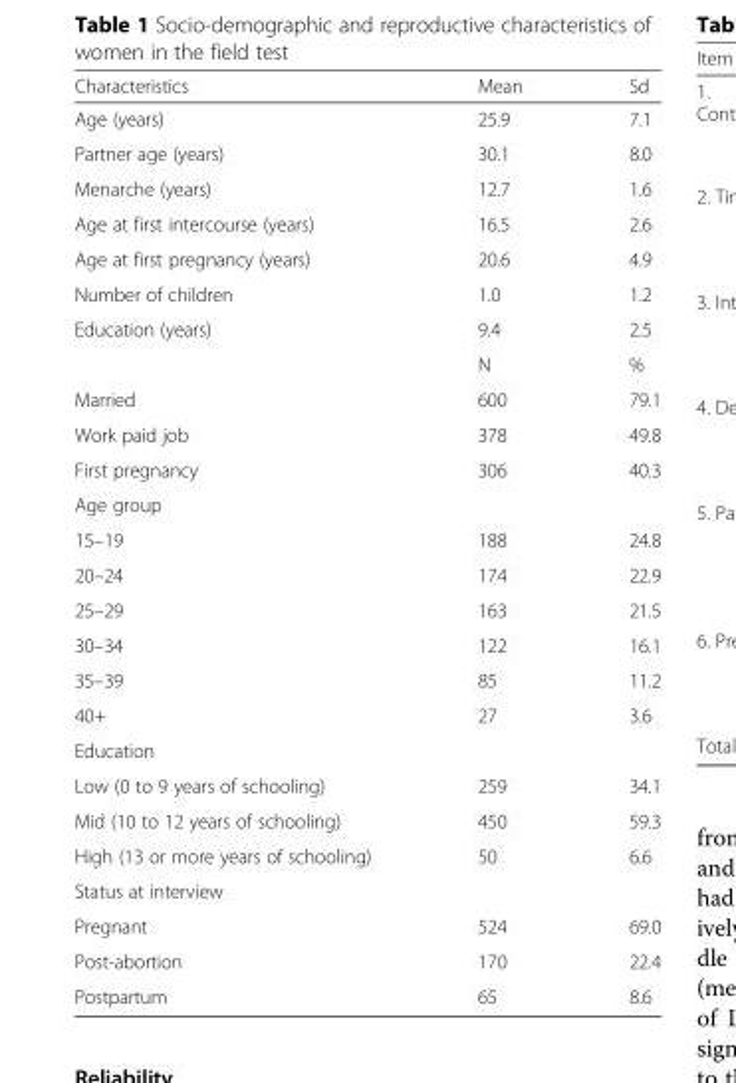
<table><thead><tr><td>Characteristics</td><td>Mean</td><td>Sd</td></tr></thead><tbody><tr><td>Age (years)</td><td>25.9</td><td>7.1</td></tr><tr><td>Partner age (years)</td><td>30.1</td><td>8.0</td></tr><tr><td>Menarche (years)</td><td>12.7</td><td>1.6</td></tr><tr><td>Age at first intercourse (years)</td><td>16.5</td><td>2.6</td></tr><tr><td>Age at first pregnancy (years)</td><td>20.6</td><td>4.9</td></tr><tr><td>Number of children</td><td>1.0</td><td>1.2</td></tr><tr><td rowspan="2">Education (years)</td><td>9.4</td><td>2.5</td></tr><tr><td>N</td><td>%</td></tr><tr><td>Married</td><td>600</td><td>79.1</td></tr><tr><td>Work paid job</td><td>378</td><td>49.8</td></tr><tr><td>First pregnancy</td><td>306</td><td>40.3</td></tr><tr><td colspan="3">Age group</td></tr><tr><td>15–19</td><td>188</td><td>24.8</td></tr><tr><td>20–24</td><td>174</td><td>22.9</td></tr><tr><td>25–29</td><td>163</td><td>21.5</td></tr><tr><td>30–34</td><td>122</td><td>16.1</td></tr><tr><td>35–39</td><td>85</td><td>11.2</td></tr><tr><td>40+</td><td>27</td><td>3.6</td></tr><tr><td colspan="3">Education</td></tr><tr><td>Low (0 to 9 years of schooling)</td><td>259</td><td>34.1</td></tr><tr><td>Mid (10 to 12 years of schooling)</td><td>450</td><td>59.3</td></tr><tr><td>High (13 or more years of schooling)</td><td>50</td><td>6.6</td></tr><tr><td colspan="3">Status at interview</td></tr><tr><td>Pregnant</td><td>524</td><td>69.0</td></tr><tr><td>Post-abortion</td><td>170</td><td>22.4</td></tr><tr><td>Postpartum</td><td>65</td><td>8.6</td></tr></tbody></table>